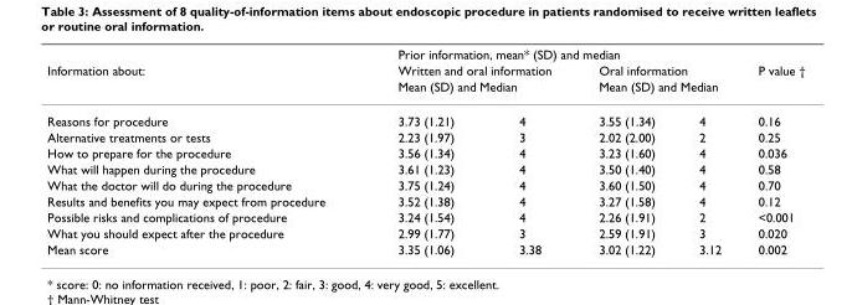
<table><thead><tr><td rowspan="4">Information about: Reasons for procedure</td><td colspan="5">Prior information, mean* (SD) and median</td></tr><tr><td rowspan="2" colspan="2">Written and oral information Mean (SD) and Median</td><td rowspan="2" colspan="2">Oral information Mean (SD) and Median</td><td rowspan="3">P value † 0.16</td></tr><tr></tr><tr><td>3.73 (1.21)</td><td>4</td><td>3.55 (1.34)</td><td>4</td></tr></thead><tbody><tr><td>Alternative treatments or tests</td><td>2.23 (1.97)</td><td>3</td><td>2.02 (2.00)</td><td>2</td><td>0.25</td></tr><tr><td>How to prepare for the procedure</td><td>3.56 (1.34)</td><td>4</td><td>3.23 (1.60)</td><td>4</td><td>0.036</td></tr><tr><td>What will happen during the procedure</td><td>3.61 (1.23)</td><td>4</td><td>3.50 (1.40)</td><td>4</td><td>0.58</td></tr><tr><td>What the doctor will do during the procedure</td><td>3.75 (1.24)</td><td>4</td><td>3.60 (1.50)</td><td>4</td><td>0.70</td></tr><tr><td>Results and benefits you may expect from procedure</td><td>3.52 (1.38)</td><td>4</td><td>3.27 (1.58)</td><td>4</td><td>0.12</td></tr><tr><td>Possible risks and complications of procedure</td><td>3.24 (1.54)</td><td>4</td><td>2.26 (1.91)</td><td>2</td><td>&lt;0.001</td></tr><tr><td>What you should expect after the procedure</td><td>2.99 (1.77)</td><td>3</td><td>2.59 (1.91)</td><td>3</td><td>0.020</td></tr><tr><td>Mean score</td><td>3.35 (1.06)</td><td>3.38</td><td>3.02 (1.22)</td><td>3.12</td><td>0.002</td></tr></tbody></table>